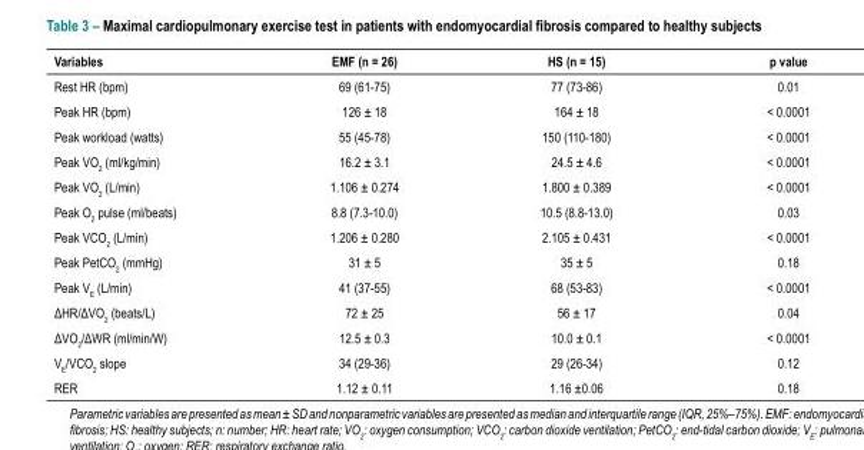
<table><thead><tr><td>Variables</td><td>EMF (n = 26)</td><td>HS (n = 15)</td><td>p value</td></tr></thead><tbody><tr><td>Rest HR (bpm)</td><td>69 (61-75)</td><td>77 (73-86)</td><td>0.01</td></tr><tr><td>Peak HR (bpm)</td><td>126 ± 18</td><td>164 ± 18</td><td>&lt; 0.0001</td></tr><tr><td>Peak workload (watts)</td><td>55 (45-78)</td><td>150 (110-180)</td><td>&lt; 0.0001</td></tr><tr><td>Peak VO<sub>2</sub> (ml/kg/min)</td><td>16.2 ± 3.1</td><td>24.5 ± 4.6</td><td>&lt; 0.0001</td></tr><tr><td>Peak VO<sub>2</sub> (L/min)</td><td>1.106 ± 0.274</td><td>1.800 ± 0.389</td><td>&lt; 0.0001</td></tr><tr><td>Peak O<sub>2</sub> pulse (ml/beats)</td><td>8.8 (7.3-10.0)</td><td>10.5 (8.8-13.0)</td><td>0.03</td></tr><tr><td>Peak VCO<sub>2</sub> (L/min)</td><td>1.206 ± 0.280</td><td>2.105 ± 0.431</td><td>&lt; 0.0001</td></tr><tr><td>Peak PetCO<sub>2</sub> (mmHg)</td><td>31 ± 5</td><td>35 ± 5</td><td>0.18</td></tr><tr><td>Peak V<sub>E</sub> (L/min)</td><td>41 (37-55)</td><td>68 (53-83)</td><td>&lt; 0.0001</td></tr><tr><td>ΔHR/ΔVO<sub>2</sub> (beats/L)</td><td>72 ± 25</td><td>56 ± 17</td><td>0.04</td></tr><tr><td>ΔVO<sub>2</sub>/ΔWR (ml/min/W)</td><td>12.5 ± 0.3</td><td>10.0 ± 0.1</td><td>&lt; 0.0001</td></tr><tr><td>V<sub>E</sub>/VCO<sub>2</sub> slope</td><td>34 (29-36)</td><td>29 (26-34)</td><td>0.12</td></tr><tr><td>RER</td><td>1.12 ± 0.11</td><td>1.16 ±0.06</td><td>0.18</td></tr></tbody></table>